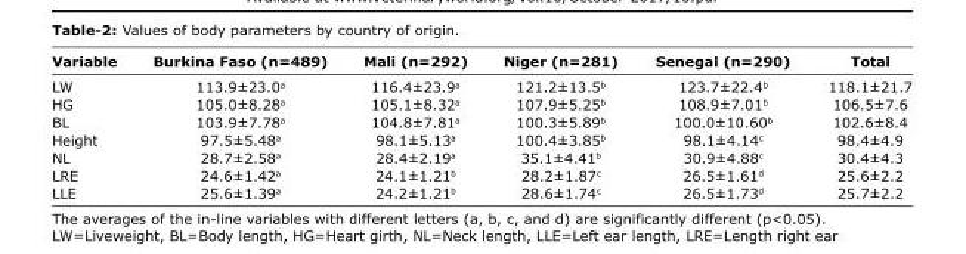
<table><thead><tr><td>Variable</td><td>Burkina Faso (n=489)</td><td>Mali (n=292)</td><td>Niger (n=281)</td><td>Senegal (n=290)</td><td>Total</td></tr></thead><tbody><tr><td>LW</td><td>113.9±23.0<sup>a</sup></td><td>116.4±23.9<sup>a</sup></td><td>121.2±13.5<sup>b</sup></td><td>123.7±22.4<sup>b</sup></td><td>118.1±21.7</td></tr><tr><td>HG</td><td>105.0±8.28<sup>a</sup></td><td>105.1±8.32<sup>a</sup></td><td>107.9±5.25<sup>b</sup></td><td>108.9±7.01<sup>b</sup></td><td>106.5±7.6</td></tr><tr><td>BL</td><td>103.9±7.78<sup>a</sup></td><td>104.8±7.81<sup>a</sup></td><td>100.3±5.89<sup>b</sup></td><td>100.0±10.60<sup>b</sup></td><td>102.6±8.4</td></tr><tr><td>Height</td><td>97.5±5.48<sup>a</sup></td><td>98.1±5.13<sup>a</sup></td><td>100.4±3.85<sup>b</sup></td><td>98.1±4.14<sup>c</sup></td><td>98.4±4.9</td></tr><tr><td>NL</td><td>28.7±2.58<sup>a</sup></td><td>28.4±2.19<sup>a</sup></td><td>35.1±4.41<sup>b</sup></td><td>30.9±4.88<sup>c</sup></td><td>30.4±4.3</td></tr><tr><td>LRE</td><td>24.6±1.42<sup>a</sup></td><td>24.1±1.21<sup>b</sup></td><td>28.2±1.87<sup>c</sup></td><td>26.5±1.61<sup>d</sup></td><td>25.6±2.2</td></tr><tr><td>LLE</td><td>25.6±1.39<sup>a</sup></td><td>24.2±1.21<sup>b</sup></td><td>28.6±1.74<sup>c</sup></td><td>26.5±1.73<sup>d</sup></td><td>25.7±2.2</td></tr></tbody></table>